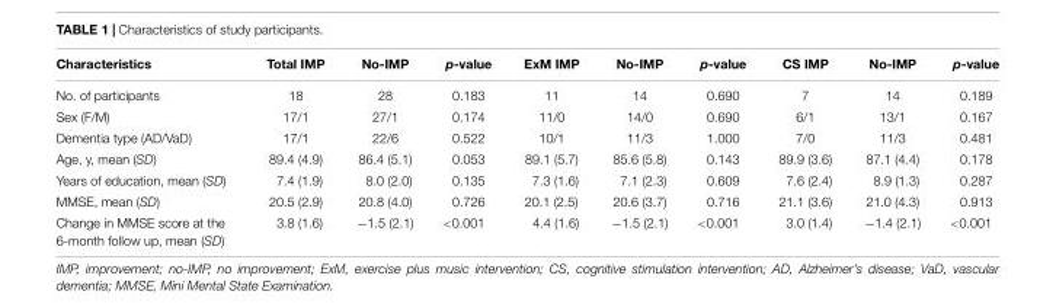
<table><thead><tr><td>Characteristics</td><td>Total IMP</td><td>No-IMP</td><td>p-value</td><td>ExM IMP</td><td>No-IMP</td><td>p-value</td><td>CS IMP</td><td>No-IMP</td><td>p-value</td></tr></thead><tbody><tr><td>No. of participants</td><td>18</td><td>28</td><td>0.183</td><td>11</td><td>14</td><td>0.690</td><td>7</td><td>14</td><td>0.189</td></tr><tr><td>Sex (F/M)</td><td>17/1</td><td>27/1</td><td>0.174</td><td>11/0</td><td>14/0</td><td>0.690</td><td>6/1</td><td>13/1</td><td>0.167</td></tr><tr><td>Dementia type (AD/VaD)</td><td>17/1</td><td>22/6</td><td>0.522</td><td>10/1</td><td>11/3</td><td>1.000</td><td>7/0</td><td>11/3</td><td>0.481</td></tr><tr><td>Age, y, mean (SD)</td><td>89.4 (4.9)</td><td>86.4 (5.1)</td><td>0.053</td><td>89.1 (5.7)</td><td>85.6 (5.8)</td><td>0.143</td><td>89.9 (3.6)</td><td>87.1 (4.4)</td><td>0.178</td></tr><tr><td>Years of education, mean (SD)</td><td>7.4 (1.9)</td><td>8.0 (2.0)</td><td>0.135</td><td>7.3 (1.6)</td><td>7.1 (2.3)</td><td>0.609</td><td>7.6 (2.4)</td><td>8.9 (1.3)</td><td>0.287</td></tr><tr><td>MMSE, mean (SD)</td><td>20.5 (2.9)</td><td>20.8 (4.0)</td><td>0.726</td><td>20.1 (2.5)</td><td>20.6 (3.7)</td><td>0.716</td><td>21.1 (3.6)</td><td>21.0 (4.3)</td><td>0.913</td></tr><tr><td>Change in MMSE score at the 6-month follow up, mean (SD)</td><td>3.8 (1.6)</td><td>−1.5 (2.1)</td><td>&lt;0.001</td><td>4.4 (1.6)</td><td>−1.5 (2.1)</td><td>&lt;0.001</td><td>3.0 (1.4)</td><td>−1.4 (2.1)</td><td>&lt;0.001</td></tr></tbody></table>